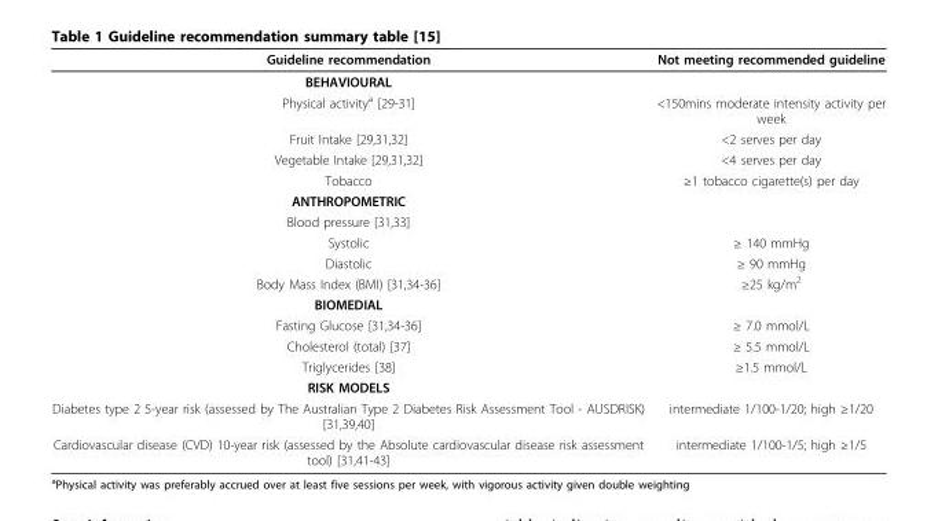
<table><thead><tr><td>Guideline recommendation</td><td>Not meeting recommended guideline</td></tr></thead><tbody><tr><td colspan="2">BEHAVIOURAL</td></tr><tr><td>Physical activity<sup>a</sup> [29-31]</td><td>&lt;150mins moderate intensity activity per week</td></tr><tr><td>Fruit Intake [29,31,32]</td><td>&lt;2 serves per day</td></tr><tr><td>Vegetable Intake [29,31,32]</td><td>&lt;4 serves per day</td></tr><tr><td>Tobacco</td><td>≥1 tobacco cigarette(s) per day</td></tr><tr><td colspan="2">ANTHROPOMETRIC</td></tr><tr><td colspan="2">Blood pressure [31,33]</td></tr><tr><td>Systolic</td><td>≥ 140 mmHg</td></tr><tr><td>Diastolic</td><td>≥ 90 mmHg</td></tr><tr><td>Body Mass Index (BMI) [31,34-36]</td><td>≥25 kg/m<sup>2</sup></td></tr><tr><td colspan="2">BIOMEDIAL</td></tr><tr><td>Fasting Glucose [31,34-36]</td><td>≥ 7.0 mmol/L</td></tr><tr><td>Cholesterol (total) [37]</td><td>≥ 5.5 mmol/L</td></tr><tr><td>Triglycerides [38]</td><td>≥1.5 mmol/L</td></tr><tr><td colspan="2">RISK MODELS</td></tr><tr><td>Diabetes type 2 5-year risk (assessed by The Australian Type 2 Diabetes Risk Assessment Tool - AUSDRISK) [31,39,40]</td><td>intermediate 1/100-1/20; high ≥1/20</td></tr><tr><td>Cardiovascular disease (CVD) 10-year risk (assessed by the Absolute cardiovascular disease risk assessment tool) [31,41-43]</td><td>intermediate 1/100-1/5; high ≥1/5</td></tr></tbody></table>